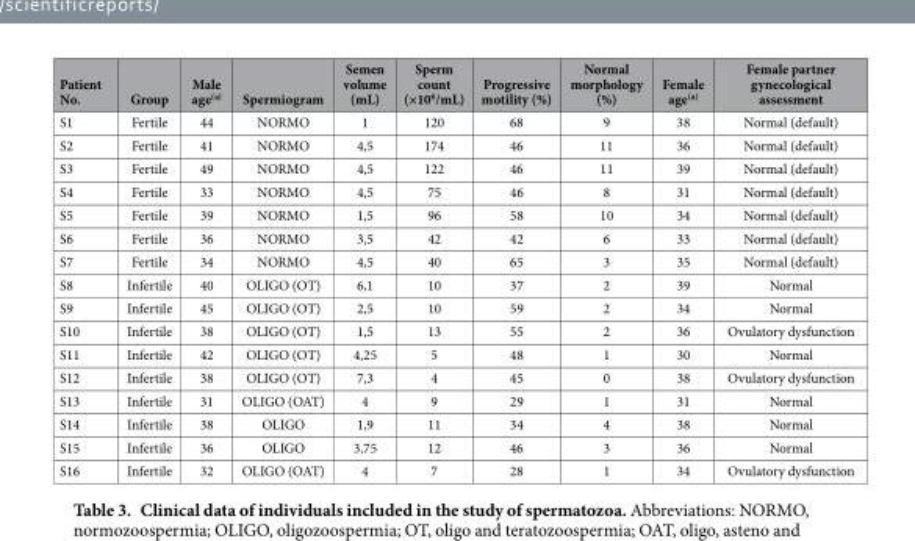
<table><thead><tr><td>Patient No.</td><td>Group</td><td>Male age<sup>(a)</sup></td><td>Spermiogram</td><td>Semen volume (mL)</td><td>Sperm count (×10<sup>6</sup>/mL)</td><td>Progressive motility (%)</td><td>Normal morphology (%)</td><td>Female age<sup>(a)</sup></td><td>Female partner gynecological assessment</td></tr></thead><tbody><tr><td>S1</td><td>Fertile</td><td>44</td><td>NORMO</td><td>1</td><td>120</td><td>68</td><td>9</td><td>38</td><td>Normal (default)</td></tr><tr><td>S2</td><td>Fertile</td><td>41</td><td>NORMO</td><td>4,5</td><td>174</td><td>46</td><td>11</td><td>36</td><td>Normal (default)</td></tr><tr><td>S3</td><td>Fertile</td><td>49</td><td>NORMO</td><td>4,5</td><td>122</td><td>46</td><td>11</td><td>39</td><td>Normal (default)</td></tr><tr><td>S4</td><td>Fertile</td><td>33</td><td>NORMO</td><td>4,5</td><td>75</td><td>46</td><td>8</td><td>31</td><td>Normal (default)</td></tr><tr><td>S5</td><td>Fertile</td><td>39</td><td>NORMO</td><td>1,5</td><td>96</td><td>58</td><td>10</td><td>34</td><td>Normal (default)</td></tr><tr><td>S6</td><td>Fertile</td><td>36</td><td>NORMO</td><td>3,5</td><td>42</td><td>42</td><td>6</td><td>33</td><td>Normal (default)</td></tr><tr><td>S7</td><td>Fertile</td><td>34</td><td>NORMO</td><td>4,5</td><td>40</td><td>65</td><td>3</td><td>35</td><td>Normal (default)</td></tr><tr><td>S8</td><td>Infertile</td><td>40</td><td>OLIGO (OT)</td><td>6,1</td><td>10</td><td>37</td><td>2</td><td>39</td><td>Normal</td></tr><tr><td>S9</td><td>Infertile</td><td>45</td><td>OLIGO (OT)</td><td>2,5</td><td>10</td><td>59</td><td>2</td><td>34</td><td>Normal</td></tr><tr><td>S10</td><td>Infertile</td><td>38</td><td>OLIGO (OT)</td><td>1,5</td><td>13</td><td>55</td><td>2</td><td>36</td><td>Ovulatory dysfunction</td></tr><tr><td>S11</td><td>Infertile</td><td>42</td><td>OLIGO (OT)</td><td>4,25</td><td>5</td><td>48</td><td>1</td><td>30</td><td>Normal</td></tr><tr><td>S12</td><td>Infertile</td><td>38</td><td>OLIGO (OT)</td><td>7,3</td><td>4</td><td>45</td><td>0</td><td>38</td><td>Ovulatory dysfunction</td></tr><tr><td>S13</td><td>Infertile</td><td>31</td><td>OLIGO (OAT)</td><td>4</td><td>9</td><td>29</td><td>1</td><td>31</td><td>Normal</td></tr><tr><td>S14</td><td>Infertile</td><td>38</td><td>OLIGO</td><td>1,9</td><td>11</td><td>34</td><td>4</td><td>38</td><td>Normal</td></tr><tr><td>S15</td><td>Infertile</td><td>36</td><td>OLIGO</td><td>3,75</td><td>12</td><td>46</td><td>3</td><td>36</td><td>Normal</td></tr><tr><td>S16</td><td>Infertile</td><td>32</td><td>OLIGO (OAT)</td><td>4</td><td>7</td><td>28</td><td>1</td><td>34</td><td>Ovulatory dysfunction</td></tr></tbody></table>